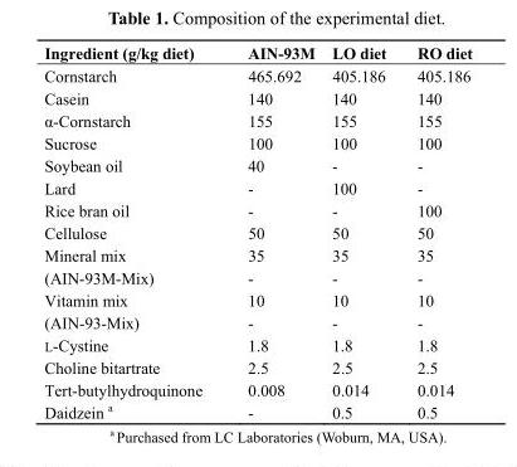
<table><thead><tr><td>Ingredient (g/kg diet)</td><td>AIN-93M</td><td>LO diet</td><td>RO diet</td></tr></thead><tbody><tr><td>Cornstarch</td><td>465.692</td><td>405.186</td><td>405.186</td></tr><tr><td>Casein</td><td>140</td><td>140</td><td>140</td></tr><tr><td>α-Cornstarch</td><td>155</td><td>155</td><td>155</td></tr><tr><td>Sucrose</td><td>100</td><td>100</td><td>100</td></tr><tr><td>Soybean oil</td><td>40</td><td>-</td><td>-</td></tr><tr><td>Lard</td><td>-</td><td>100</td><td>-</td></tr><tr><td>Rice bran oil</td><td>-</td><td>-</td><td>100</td></tr><tr><td>Cellulose</td><td>50</td><td>50</td><td>50</td></tr><tr><td>Mineral mix</td><td>35</td><td>35</td><td>35</td></tr><tr><td>(AIN-93M-Mix)</td><td>-</td><td>-</td><td>-</td></tr><tr><td>Vitamin mix</td><td>10</td><td>10</td><td>10</td></tr><tr><td>(AIN-93-Mix)</td><td>-</td><td>-</td><td>-</td></tr><tr><td>L-Cystine</td><td>1.8</td><td>1.8</td><td>1.8</td></tr><tr><td>Choline bitartrate</td><td>2.5</td><td>2.5</td><td>2.5</td></tr><tr><td>Tert-butylhydroquinone</td><td>0.008</td><td>0.014</td><td>0.014</td></tr><tr><td>Daidzein a</td><td>-</td><td>0.5</td><td>0.5</td></tr></tbody></table>